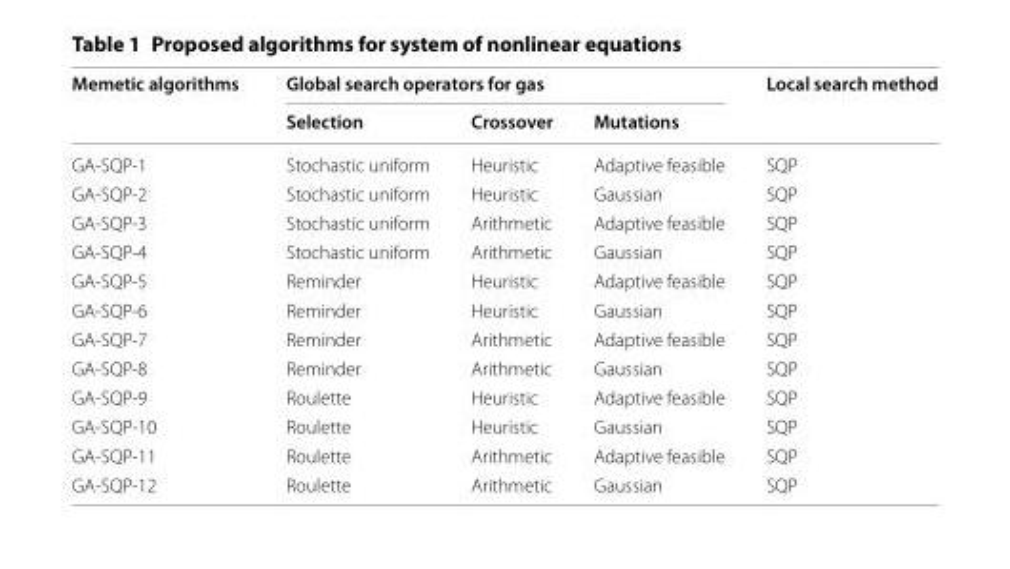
<table><thead><tr><td rowspan="2">Memetic algorithms</td><td colspan="3">Global search operators for gas</td><td rowspan="2">Local search method</td></tr><tr><td>Selection</td><td>Crossover</td><td>Mutations</td></tr></thead><tbody><tr><td>GA-SQP-1</td><td>Stochastic uniform</td><td>Heuristic</td><td>Adaptive feasible</td><td>SQP</td></tr><tr><td>GA-SQP-2</td><td>Stochastic uniform</td><td>Heuristic</td><td>Gaussian</td><td>SQP</td></tr><tr><td>GA-SQP-3</td><td>Stochastic uniform</td><td>Arithmetic</td><td>Adaptive feasible</td><td>SQP</td></tr><tr><td>GA-SQP-4</td><td>Stochastic uniform</td><td>Arithmetic</td><td>Gaussian</td><td>SQP</td></tr><tr><td>GA-SQP-5</td><td>Reminder</td><td>Heuristic</td><td>Adaptive feasible</td><td>SQP</td></tr><tr><td>GA-SQP-6</td><td>Reminder</td><td>Heuristic</td><td>Gaussian</td><td>SQP</td></tr><tr><td>GA-SQP-7</td><td>Reminder</td><td>Arithmetic</td><td>Adaptive feasible</td><td>SQP</td></tr><tr><td>GA-SQP-8</td><td>Reminder</td><td>Arithmetic</td><td>Gaussian</td><td>SQP</td></tr><tr><td>GA-SQP-9</td><td>Roulette</td><td>Heuristic</td><td>Adaptive feasible</td><td>SQP</td></tr><tr><td>GA-SQP-10</td><td>Roulette</td><td>Heuristic</td><td>Gaussian</td><td>SQP</td></tr><tr><td>GA-SQP-11</td><td>Roulette</td><td>Arithmetic</td><td>Adaptive feasible</td><td>SQP</td></tr><tr><td>GA-SQP-12</td><td>Roulette</td><td>Arithmetic</td><td>Gaussian</td><td>SQP</td></tr></tbody></table>